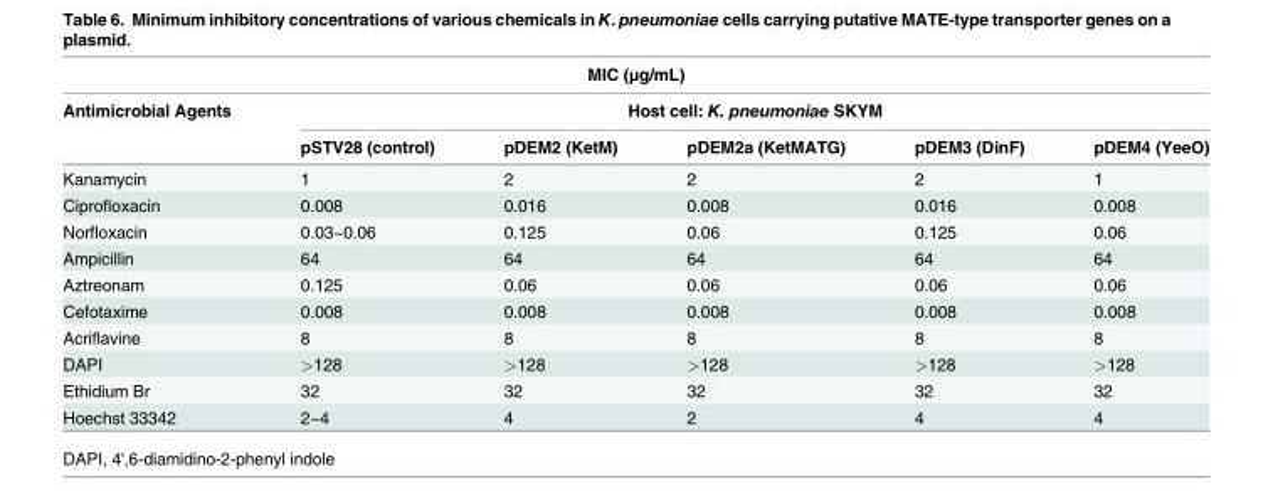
<table><thead><tr><td colspan="6">MIC (μg/mL)</td></tr><tr><td rowspan="2">Antimicrobial Agents</td><td colspan="5">Host cell: K. pneumoniae SKYM</td></tr><tr><td>pSTV28 (control)</td><td>pDEM2 (KetM)</td><td>pDEM2a (KetMATG)</td><td>pDEM3 (DinF)</td><td>pDEM4 (YeeO)</td></tr></thead><tbody><tr><td>Kanamycin</td><td>1</td><td>2</td><td>2</td><td>2</td><td>1</td></tr><tr><td>Ciprofloxacin</td><td>0.008</td><td>0.016</td><td>0.008</td><td>0.016</td><td>0.008</td></tr><tr><td>Norfloxacin</td><td>0.03~0.06</td><td>0.125</td><td>0.06</td><td>0.125</td><td>0.06</td></tr><tr><td>Ampicillin</td><td>64</td><td>64</td><td>64</td><td>64</td><td>64</td></tr><tr><td>Aztreonam</td><td>0.125</td><td>0.06</td><td>0.06</td><td>0.06</td><td>0.06</td></tr><tr><td>Cefotaxime</td><td>0.008</td><td>0.008</td><td>0.008</td><td>0.008</td><td>0.008</td></tr><tr><td>Acriflavine</td><td>8</td><td>8</td><td>8</td><td>8</td><td>8</td></tr><tr><td>DAPI</td><td>&gt;128</td><td>&gt;128</td><td>&gt;128</td><td>&gt;128</td><td>&gt;128</td></tr><tr><td>Ethidium Br</td><td>32</td><td>32</td><td>32</td><td>32</td><td>32</td></tr><tr><td>Hoechst 33342</td><td>2~4</td><td>4</td><td>2</td><td>4</td><td>4</td></tr></tbody></table>